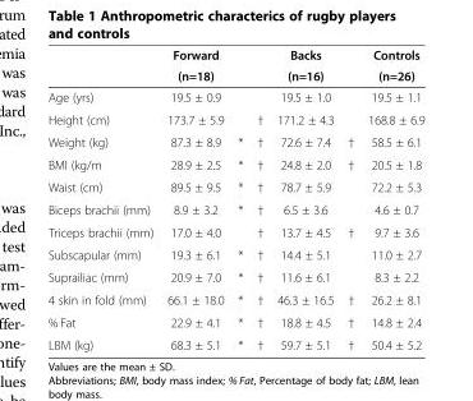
<table><thead><tr><td rowspan="2"></td><td rowspan="2">Forward (n=18)</td><td rowspan="2"></td><td rowspan="2"></td><td rowspan="2">Backs (n=16)</td><td rowspan="2"></td><td rowspan="2">Controls (n=26)</td></tr><tr></tr></thead><tbody><tr><td>Age (yrs)</td><td>19.5 ± 0.9</td><td></td><td></td><td>19.5 ± 1.0</td><td></td><td>19.5 ± 1.1</td></tr><tr><td>Height (cm)</td><td>173.7 ± 5.9</td><td></td><td>†</td><td>171.2 ± 4.3</td><td></td><td>168.8 ± 6.9</td></tr><tr><td>Weight (kg)</td><td>87.3 ± 8.9</td><td>*</td><td>†</td><td>72.6 ± 7.4</td><td>†</td><td>58.5 ± 6.1</td></tr><tr><td>BMI (kg/m</td><td>28.9 ± 2.5</td><td>*</td><td>†</td><td>24.8 ± 2.0</td><td>†</td><td>20.5 ± 1.8</td></tr><tr><td>Waist (cm)</td><td>89.5 ± 9.5</td><td>*</td><td>†</td><td>78.7 ± 5.9</td><td></td><td>72.2 ± 5.3</td></tr><tr><td>Biceps brachii (mm)</td><td>8.9 ± 3.2</td><td>*</td><td>†</td><td>6.5 ± 3.6</td><td></td><td>4.6 ± 0.7</td></tr><tr><td>Triceps brachii (mm)</td><td>17.0 ± 4.0</td><td></td><td>†</td><td>13.7 ± 4.5</td><td>†</td><td>9.7 ± 3.6</td></tr><tr><td>Subscapular (mm)</td><td>19.3 ± 6.1</td><td>*</td><td>†</td><td>14.4 ± 5.1</td><td></td><td>11.0 ± 2.7</td></tr><tr><td>Suprailiac (mm)</td><td>20.9 ± 7.0</td><td>*</td><td>†</td><td>11.6 ± 6.1</td><td></td><td>8.3 ± 2.2</td></tr><tr><td>4 skin in fold (mm)</td><td>66.1 ± 18.0</td><td>*</td><td>†</td><td>46.3 ± 16.5</td><td>†</td><td>26.2 ± 8.1</td></tr><tr><td>% Fat</td><td>22.9 ± 4.1</td><td>*</td><td>†</td><td>18.8 ± 4.5</td><td>†</td><td>14.8 ± 2.4</td></tr><tr><td>LBM (kg)</td><td>68.3 ± 5.1</td><td>*</td><td>†</td><td>59.7 ± 5.1</td><td>†</td><td>50.4 ± 5.2</td></tr></tbody></table>